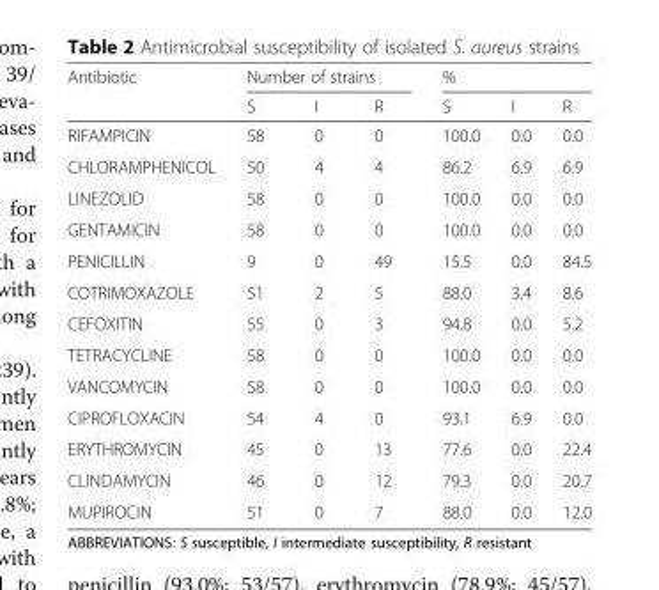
<table><thead><tr><td rowspan="2">Antibiotic</td><td colspan="3">Number of strains</td><td colspan="3">%</td></tr><tr><td>S</td><td>I</td><td>R</td><td>S</td><td>I</td><td>R</td></tr></thead><tbody><tr><td>RIFAMPICIN</td><td>58</td><td>0</td><td>0</td><td>100.0</td><td>0.0</td><td>0.0</td></tr><tr><td>CHLORAMPHENICOL</td><td>50</td><td>4</td><td>4</td><td>86.2</td><td>6.9</td><td>6.9</td></tr><tr><td>LINEZOLID</td><td>58</td><td>0</td><td>0</td><td>100.0</td><td>0.0</td><td>0.0</td></tr><tr><td>GENTAMICIN</td><td>58</td><td>0</td><td>0</td><td>100.0</td><td>0.0</td><td>0.0</td></tr><tr><td>PENICILLIN</td><td>9</td><td>0</td><td>49</td><td>15.5</td><td>0.0</td><td>84.5</td></tr><tr><td>COTRIMOXAZOLE</td><td>51</td><td>2</td><td>5</td><td>88.0</td><td>3.4</td><td>8.6</td></tr><tr><td>CEFOXITIN</td><td>55</td><td>0</td><td>3</td><td>94.8</td><td>0.0</td><td>5.2</td></tr><tr><td>TETRACYCLINE</td><td>58</td><td>0</td><td>0</td><td>100.0</td><td>0.0</td><td>0.0</td></tr><tr><td>VANCOMYCIN</td><td>58</td><td>0</td><td>0</td><td>100.0</td><td>0.0</td><td>0.0</td></tr><tr><td>CIPROFLOXACIN</td><td>54</td><td>4</td><td>0</td><td>93.1</td><td>6.9</td><td>0.0</td></tr><tr><td>ERYTHROMYCIN</td><td>45</td><td>0</td><td>13</td><td>77.6</td><td>0.0</td><td>22.4</td></tr><tr><td>CLINDAMYCIN</td><td>46</td><td>0</td><td>12</td><td>79.3</td><td>0.0</td><td>20.7</td></tr><tr><td>MUPIROCIN</td><td>51</td><td>0</td><td>7</td><td>88.0</td><td>0.0</td><td>12.0</td></tr></tbody></table>